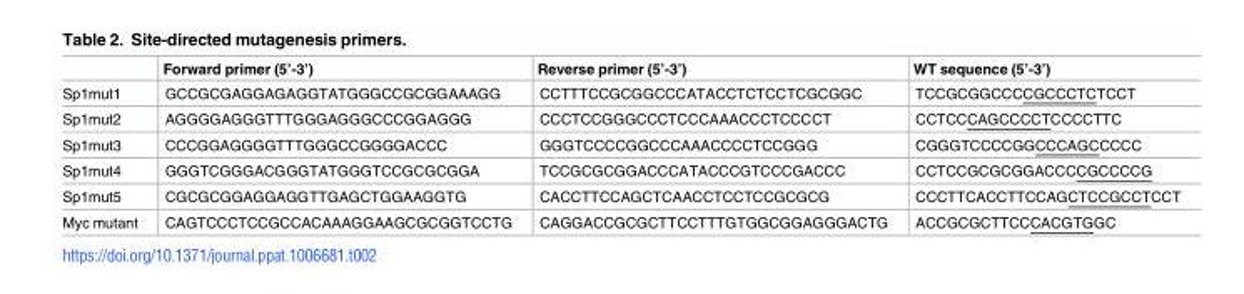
<table><thead><tr><td></td><td>Forward primer (5’-3’)</td><td>Reverse primer (5’-3’)</td><td>WT sequence (5’-3’)</td></tr></thead><tbody><tr><td>Sp1mut1</td><td>GCCGCGAGGAGAGGTATGGGCCGCGGAAAGG</td><td>CCTTTCCGCGGCCCATACCTCTCCTCGCGGC</td><td>TCCGCGGCCCCGCCCTCTCCT</td></tr><tr><td>Sp1mut2</td><td>AGGGGAGGGTTTGGGAGGGCCCGGAGGG</td><td>CCCTCCGGGCCCTCCCAAACCCTCCCCT</td><td>CCTCCCAGCCCCTCCCCTTC</td></tr><tr><td>Sp1mut3</td><td>CCCGGAGGGGTTTGGGCCGGGGACCC</td><td>GGGTCCCCGGCCCAAACCCCTCCGGG</td><td>CGGGTCCCCGGCCCAGCCCCC</td></tr><tr><td>Sp1mut4</td><td>GGGTCGGGACGGGTATGGGTCCGCGCGGA</td><td>TCCGCGCGGACCCATACCCGTCCCGACCC</td><td>CCTCCGCGCGGACCCCGCCCCG</td></tr><tr><td>Sp1mut5</td><td>CGCGCGGAGGAGGTTGAGCTGGAAGGTG</td><td>CACCTTCCAGCTCAACCTCCTCCGCGCG</td><td>CCCTTCACCTTCCAGCTCCGCCTCCT</td></tr><tr><td>Myc mutant</td><td>CAGTCCCTCCGCCACAAAGGAAGCGCGGTCCTG</td><td>CAGGACCGCGCTTCCTTTGTGGCGGAGGGACTG</td><td>ACCGCGCTTCCCACGTGGC</td></tr></tbody></table>